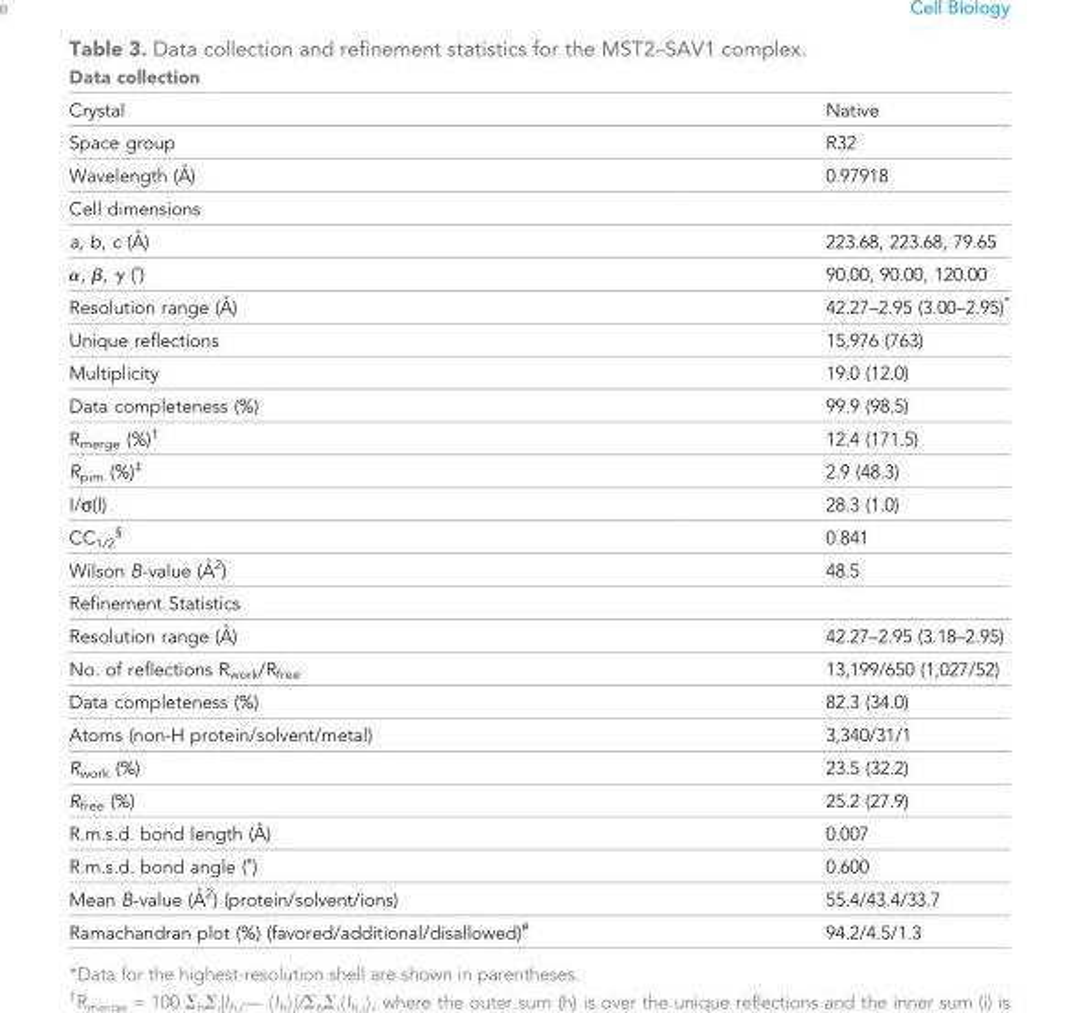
<table><thead><tr><td>Data collection</td><td></td></tr></thead><tbody><tr><td>Crystal</td><td>Native</td></tr><tr><td>Space group</td><td>R32</td></tr><tr><td>Wavelength (A˚ )</td><td>0.97918</td></tr><tr><td colspan="2">Cell dimensions</td></tr><tr><td>a, b, c (A˚ )</td><td>223.68, 223.68, 79.65</td></tr><tr><td>α, β, γ (˚)</td><td>90.00, 90.00, 120.00</td></tr><tr><td>Resolution range (A˚ )</td><td>42.27–2.95 (3.00–2.95)*</td></tr><tr><td>Unique reflections</td><td>15,976 (763)</td></tr><tr><td>Multiplicity</td><td>19.0 (12.0)</td></tr><tr><td>Data completeness (%)</td><td>99.9 (98.5)</td></tr><tr><td>R<sub>merge</sub> (%)<sup>†</sup></td><td>12.4 (171.5)</td></tr><tr><td>R<sub>pim</sub> (%)<sup>‡</sup></td><td>2.9 (48.3)</td></tr><tr><td>I/σ(I)</td><td>28.3 (1.0)</td></tr><tr><td>CC<sub>1/2</sub> <sup>§</sup></td><td>0.841</td></tr><tr><td>Wilson B-value (A˚ 2)</td><td>48.5</td></tr><tr><td colspan="2">Refinement Statistics</td></tr><tr><td>Resolution range (A˚ )</td><td>42.27–2.95 (3.18–2.95)</td></tr><tr><td>No. of reflections R<sub>work</sub>/R<sub>free</sub></td><td>13,199/650 (1,027/52)</td></tr><tr><td>Data completeness (%)</td><td>82.3 (34.0)</td></tr><tr><td>Atoms (non-H protein/solvent/metal)</td><td>3,340/31/1</td></tr><tr><td>R<sub>work</sub> (%)</td><td>23.5 (32.2)</td></tr><tr><td>R<sub>free</sub> (%)</td><td>25.2 (27.9)</td></tr><tr><td>R.m.s.d. bond length (A˚ )</td><td>0.007</td></tr><tr><td>R.m.s.d. bond angle (˚)</td><td>0.600</td></tr><tr><td>Mean B-value (A˚ 2) (protein/solvent/ions)</td><td>55.4/43.4/33.7</td></tr><tr><td>Ramachandran plot (%) (favored/additional/disallowed)<sup>#</sup></td><td>94.2/4.5/1.3</td></tr></tbody></table>